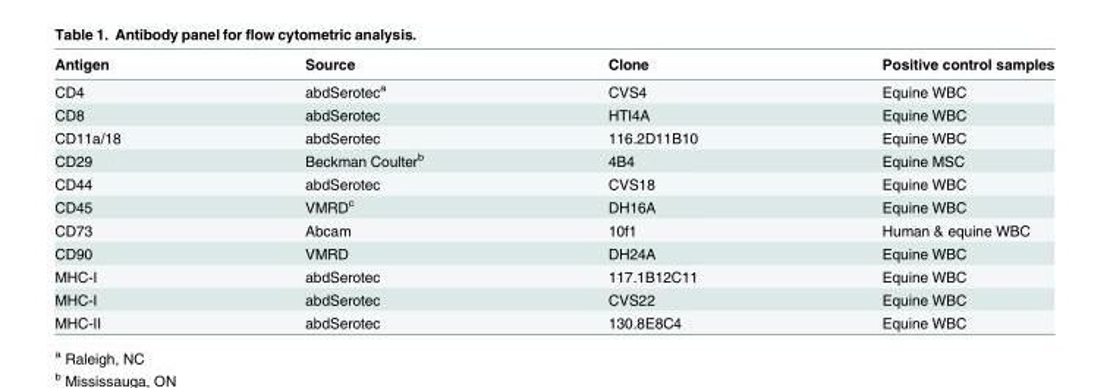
<table><thead><tr><td>Antigen</td><td>Source</td><td>Clone</td><td>Positive control samples</td></tr></thead><tbody><tr><td>CD4</td><td>abdSerotec<sup>a</sup></td><td>CVS4</td><td>Equine WBC</td></tr><tr><td>CD8</td><td>abdSerotec</td><td>HTI4A</td><td>Equine WBC</td></tr><tr><td>CD11a/18</td><td>abdSerotec</td><td>116.2D11B10</td><td>Equine WBC</td></tr><tr><td>CD29</td><td>Beckman Coulter<sup>b</sup></td><td>4B4</td><td>Equine MSC</td></tr><tr><td>CD44</td><td>abdSerotec</td><td>CVS18</td><td>Equine WBC</td></tr><tr><td>CD45</td><td>VMRD<sup>c</sup></td><td>DH16A</td><td>Equine WBC</td></tr><tr><td>CD73</td><td>Abcam</td><td>10f1</td><td>Human &amp; equine WBC</td></tr><tr><td>CD90</td><td>VMRD</td><td>DH24A</td><td>Equine WBC</td></tr><tr><td>MHC-I</td><td>abdSerotec</td><td>117.1B12C11</td><td>Equine WBC</td></tr><tr><td>MHC-I</td><td>abdSerotec</td><td>CVS22</td><td>Equine WBC</td></tr><tr><td>MHC-II</td><td>abdSerotec</td><td>130.8E8C4</td><td>Equine WBC</td></tr></tbody></table>